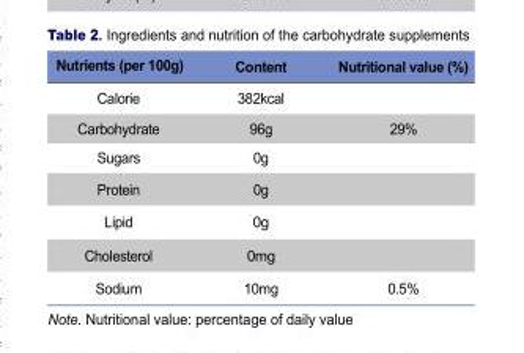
<table><thead><tr><td>Nutrients (per 100g)</td><td>Content</td><td>Nutritional value (%)</td></tr></thead><tbody><tr><td>Calorie</td><td>382kcal</td><td></td></tr><tr><td>Carbohydrate</td><td>96g</td><td>29%</td></tr><tr><td>Sugars</td><td>0g</td><td></td></tr><tr><td>Protein</td><td>0g</td><td></td></tr><tr><td>Lipid</td><td>0g</td><td></td></tr><tr><td>Cholesterol</td><td>0mg</td><td></td></tr><tr><td>Sodium</td><td>10mg</td><td>0.5%</td></tr></tbody></table>